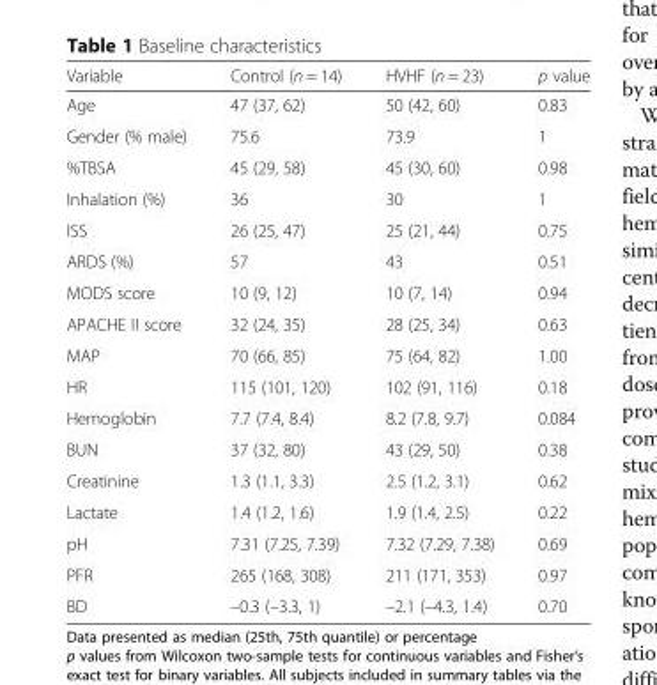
<table><thead><tr><td>Variable</td><td>Control (n = 14)</td><td>HVHF (n = 23)</td><td>p value</td></tr></thead><tbody><tr><td>Age</td><td>47 (37, 62)</td><td>50 (42, 60)</td><td>0.83</td></tr><tr><td>Gender (% male)</td><td>75.6</td><td>73.9</td><td>1</td></tr><tr><td>%TBSA</td><td>45 (29, 58)</td><td>45 (30, 60)</td><td>0.98</td></tr><tr><td>Inhalation (%)</td><td>36</td><td>30</td><td>1</td></tr><tr><td>ISS</td><td>26 (25, 47)</td><td>25 (21, 44)</td><td>0.75</td></tr><tr><td>ARDS (%)</td><td>57</td><td>43</td><td>0.51</td></tr><tr><td>MODS score</td><td>10 (9, 12)</td><td>10 (7, 14)</td><td>0.94</td></tr><tr><td>APACHE II score</td><td>32 (24, 35)</td><td>28 (25, 34)</td><td>0.63</td></tr><tr><td>MAP</td><td>70 (66, 85)</td><td>75 (64, 82)</td><td>1.00</td></tr><tr><td>HR</td><td>115 (101, 120)</td><td>102 (91, 116)</td><td>0.18</td></tr><tr><td>Hemoglobin</td><td>7.7 (7.4, 8.4)</td><td>8.2 (7.8, 9.7)</td><td>0.084</td></tr><tr><td>BUN</td><td>37 (32, 80)</td><td>43 (29, 50)</td><td>0.38</td></tr><tr><td>Creatinine</td><td>1.3 (1.1, 3.3)</td><td>2.5 (1.2, 3.1)</td><td>0.62</td></tr><tr><td>Lactate</td><td>1.4 (1.2, 1.6)</td><td>1.9 (1.4, 2.5)</td><td>0.22</td></tr><tr><td>pH</td><td>7.31 (7.25, 7.39)</td><td>7.32 (7.29, 7.38)</td><td>0.69</td></tr><tr><td>PFR</td><td>265 (168, 308)</td><td>211 (171, 353)</td><td>0.97</td></tr><tr><td>BD</td><td>–0.3 (–3.3, 1)</td><td>–2.1 (–4.3, 1.4)</td><td>0.70</td></tr></tbody></table>